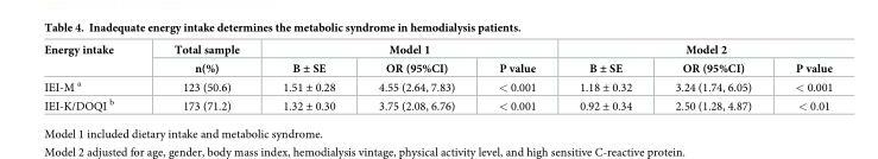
<table><thead><tr><td rowspan="2">Energy intake</td><td rowspan="2">Total sample n(%)</td><td colspan="3">Model 1</td><td colspan="3">Model 2</td></tr><tr><td>B ± SE</td><td>OR (95%CI)</td><td>P value</td><td>B ± SE</td><td>OR (95%CI)</td><td>P value</td></tr></thead><tbody><tr><td>IEI-M <sup>a</sup></td><td>123 (50.6)</td><td>1.51 ± 0.28</td><td>4.55 (2.64, 7.83)</td><td>&lt; 0.001</td><td>1.18 ± 0.32</td><td>3.24 (1.74, 6.05)</td><td>&lt; 0.001</td></tr><tr><td>IEI-K/DOQI <sup>b</sup></td><td>173 (71.2)</td><td>1.32 ± 0.30</td><td>3.75 (2.08, 6.76)</td><td>&lt; 0.001</td><td>0.92 ± 0.34</td><td>2.50 (1.28, 4.87)</td><td>&lt; 0.01</td></tr></tbody></table>